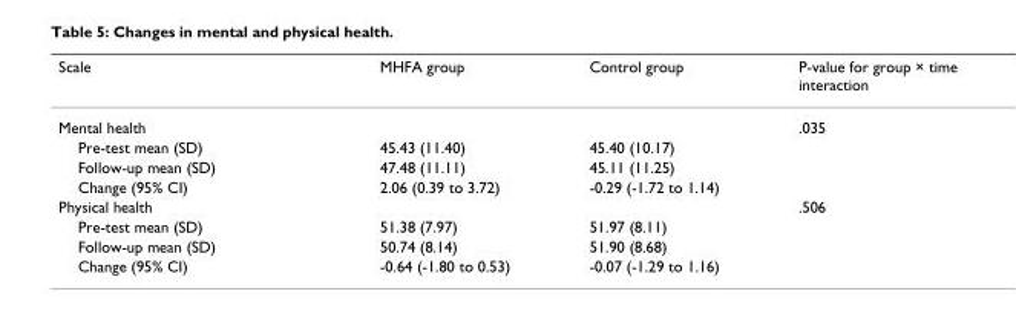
<table><thead><tr><td>Scale</td><td>MHFA group</td><td>Control group</td><td>P-value for group × time interaction</td></tr></thead><tbody><tr><td>Mental health</td><td></td><td></td><td>.035</td></tr><tr><td>Pre-test mean (SD)</td><td>45.43 (11.40)</td><td>45.40 (10.17)</td><td></td></tr><tr><td>Follow-up mean (SD)</td><td>47.48 (11.11)</td><td>45.11 (11.25)</td><td></td></tr><tr><td>Change (95% CI)</td><td>2.06 (0.39 to 3.72)</td><td>-0.29 (-1.72 to 1.14)</td><td></td></tr><tr><td>Physical health</td><td></td><td></td><td>.506</td></tr><tr><td>Pre-test mean (SD)</td><td>51.38 (7.97)</td><td>51.97 (8.11)</td><td></td></tr><tr><td>Follow-up mean (SD)</td><td>50.74 (8.14)</td><td>51.90 (8.68)</td><td></td></tr><tr><td>Change (95% CI)</td><td>-0.64 (-1.80 to 0.53)</td><td>-0.07 (-1.29 to 1.16)</td><td></td></tr></tbody></table>